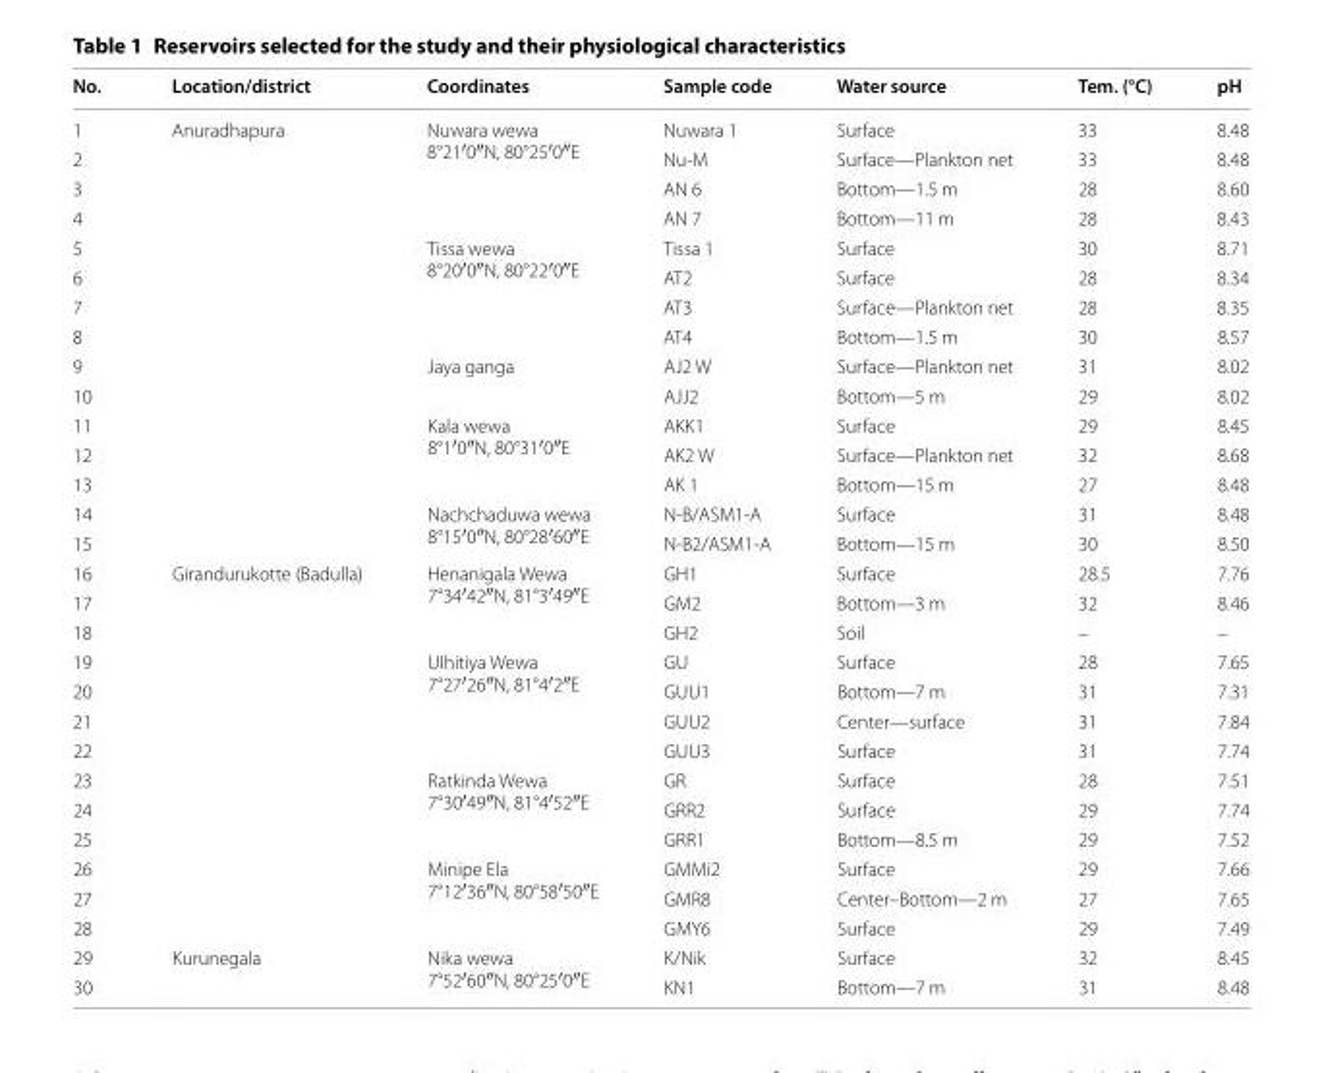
<table><thead><tr><td>No.</td><td>Location/district</td><td>Coordinates</td><td>Sample code</td><td>Water source</td><td>Tem. (°C)</td><td>pH</td></tr></thead><tbody><tr><td>1</td><td rowspan="15">Anuradhapura</td><td rowspan="4">Nuwara wewa 8°21′0″N, 80°25′0″E</td><td>Nuwara 1</td><td>Surface</td><td>33</td><td>8.48</td></tr><tr><td>2</td><td>Nu-M</td><td>Surface—Plankton net</td><td>33</td><td>8.48</td></tr><tr><td>3</td><td>AN 6</td><td>Bottom—1.5 m</td><td>28</td><td>8.60</td></tr><tr><td>4</td><td>AN 7</td><td>Bottom—11 m</td><td>28</td><td>8.43</td></tr><tr><td>5</td><td rowspan="4">Tissa wewa 8°20′0″N, 80°22′0″E</td><td>Tissa 1</td><td>Surface</td><td>30</td><td>8.71</td></tr><tr><td>6</td><td>AT2</td><td>Surface</td><td>28</td><td>8.34</td></tr><tr><td>7</td><td>AT3</td><td>Surface—Plankton net</td><td>28</td><td>8.35</td></tr><tr><td>8</td><td>AT4</td><td>Bottom—1.5 m</td><td>30</td><td>8.57</td></tr><tr><td>9</td><td rowspan="2">Jaya ganga</td><td>AJ2 W</td><td>Surface—Plankton net</td><td>31</td><td>8.02</td></tr><tr><td>10</td><td>AJJ2</td><td>Bottom—5 m</td><td>29</td><td>8.02</td></tr><tr><td>11</td><td rowspan="3">Kala wewa 8°1′0″N, 80°31′0″E</td><td>AKK1</td><td>Surface</td><td>29</td><td>8.45</td></tr><tr><td>12</td><td>AK2 W</td><td>Surface—Plankton net</td><td>32</td><td>8.68</td></tr><tr><td>13</td><td>AK 1</td><td>Bottom—15 m</td><td>27</td><td>8.48</td></tr><tr><td>14</td><td rowspan="2">Nachchaduwa wewa 8°15′0″N, 80°28′60″E</td><td>N-B/ASM1-A</td><td>Surface</td><td>31</td><td>8.48</td></tr><tr><td>15</td><td>N-B2/ASM1-A</td><td>Bottom—15 m</td><td>30</td><td>8.50</td></tr><tr><td>16</td><td rowspan="13">Girandurukotte (Badulla)</td><td rowspan="3">Henanigala Wewa 7°34′42″N, 81°3′49″E</td><td>GH1</td><td>Surface</td><td>28.5</td><td>7.76</td></tr><tr><td>17</td><td>GM2</td><td>Bottom—3 m</td><td>32</td><td>8.46</td></tr><tr><td>18</td><td>GH2</td><td>Soil</td><td>–</td><td>–</td></tr><tr><td>19</td><td rowspan="4">Ulhitiya Wewa 7°27′26″N, 81°4′2″E</td><td>GU</td><td>Surface</td><td>28</td><td>7.65</td></tr><tr><td>20</td><td>GUU1</td><td>Bottom—7 m</td><td>31</td><td>7.31</td></tr><tr><td>21</td><td>GUU2</td><td>Center—surface</td><td>31</td><td>7.84</td></tr><tr><td>22</td><td>GUU3</td><td>Surface</td><td>31</td><td>7.74</td></tr><tr><td>23</td><td rowspan="3">Ratkinda Wewa 7°30′49″N, 81°4′52″E</td><td>GR</td><td>Surface</td><td>28</td><td>7.51</td></tr><tr><td>24</td><td>GRR2</td><td>Surface</td><td>29</td><td>7.74</td></tr><tr><td>25</td><td>GRR1</td><td>Bottom—8.5 m</td><td>29</td><td>7.52</td></tr><tr><td>26</td><td rowspan="3">Minipe Ela 7°12′36″N, 80°58′50″E</td><td>GMMi2</td><td>Surface</td><td>29</td><td>7.66</td></tr><tr><td>27</td><td>GMR8</td><td>Center–Bottom—2 m</td><td>27</td><td>7.65</td></tr><tr><td>28</td><td>GMY6</td><td>Surface</td><td>29</td><td>7.49</td></tr><tr><td>29</td><td rowspan="2">Kurunegala</td><td rowspan="2">Nika wewa 7°52′60″N, 80°25′0″E</td><td>K/Nik</td><td>Surface</td><td>32</td><td>8.45</td></tr><tr><td>30</td><td>KN1</td><td>Bottom—7 m</td><td>31</td><td>8.48</td></tr></tbody></table>